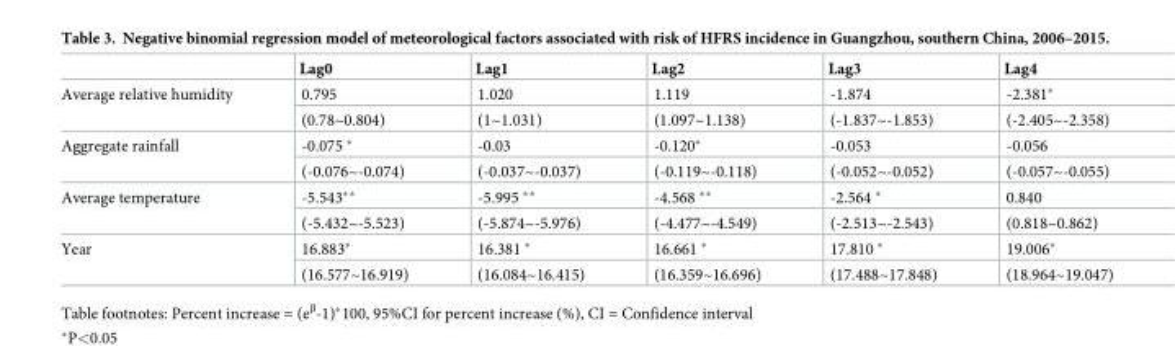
<table><thead><tr><td></td><td>Lag0</td><td>Lag1</td><td>Lag2</td><td>Lag3</td><td>Lag4</td></tr></thead><tbody><tr><td rowspan="2">Average relative humidity</td><td>0.795</td><td>1.020</td><td>1.119</td><td>-1.874</td><td>-2.381*</td></tr><tr><td>(0.78~0.804)</td><td>(1~1.031)</td><td>(1.097~1.138)</td><td>(-1.837~-1.853)</td><td>(-2.405~-2.358)</td></tr><tr><td rowspan="2">Aggregate rainfall</td><td>-0.075 *</td><td>-0.03</td><td>-0.120*</td><td>-0.053</td><td>-0.056</td></tr><tr><td>(-0.076~-0.074)</td><td>(-0.037~-0.037)</td><td>(-0.119~-0.118)</td><td>(-0.052~-0.052)</td><td>(-0.057~-0.055)</td></tr><tr><td rowspan="2">Average temperature</td><td>-5.543**</td><td>-5.995 **</td><td>-4.568 **</td><td>-2.564 *</td><td>0.840</td></tr><tr><td>(-5.432~-5.523)</td><td>(-5.874~-5.976)</td><td>(-4.477~-4.549)</td><td>(-2.513~-2.543)</td><td>(0.818~0.862)</td></tr><tr><td rowspan="2">Year</td><td>16.883*</td><td>16.381 *</td><td>16.661 *</td><td>17.810 *</td><td>19.006*</td></tr><tr><td>(16.577~16.919)</td><td>(16.084~16.415)</td><td>(16.359~16.696)</td><td>(17.488~17.848)</td><td>(18.964~19.047)</td></tr></tbody></table>